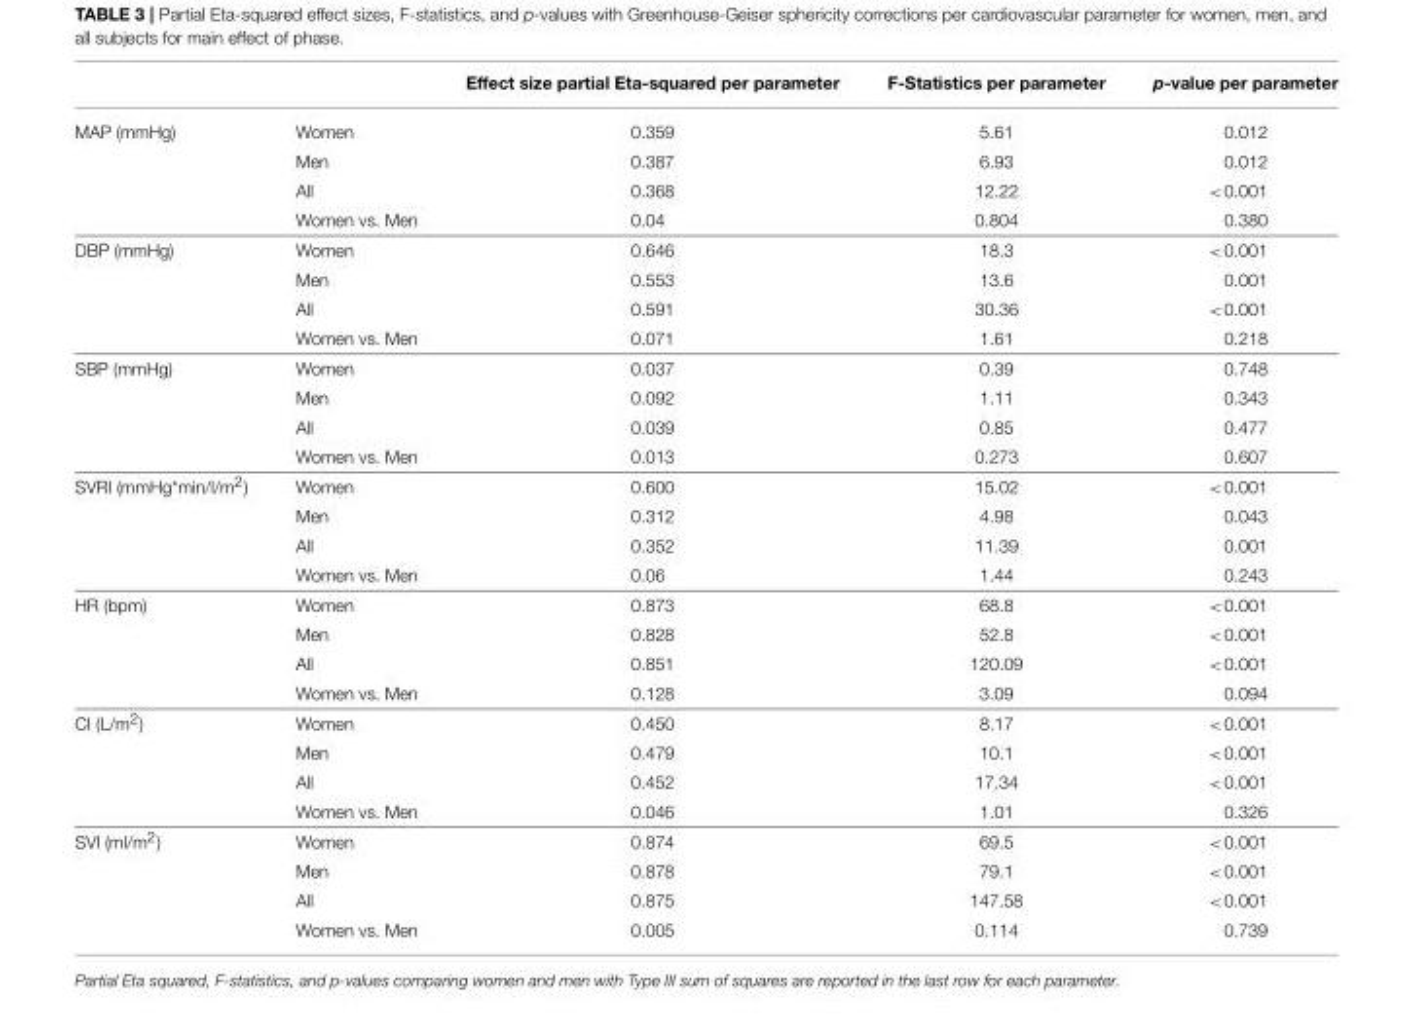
<table><thead><tr><td></td><td></td><td>Effect size partial Eta-squared per parameter</td><td>F-Statistics per parameter</td><td>p-value per parameter</td></tr></thead><tbody><tr><td rowspan="4">MAP (mmHg)</td><td>Women</td><td>0.359</td><td>5.61</td><td>0.012</td></tr><tr><td>Men</td><td>0.387</td><td>6.93</td><td>0.012</td></tr><tr><td>All</td><td>0.368</td><td>12.22</td><td>&lt;0.001</td></tr><tr><td>Women vs. Men</td><td>0.04</td><td>0.804</td><td>0.380</td></tr><tr><td rowspan="4">DBP (mmHg)</td><td>Women</td><td>0.646</td><td>18.3</td><td>&lt;0.001</td></tr><tr><td>Men</td><td>0.553</td><td>13.6</td><td>0.001</td></tr><tr><td>All</td><td>0.591</td><td>30.36</td><td>&lt;0.001</td></tr><tr><td>Women vs. Men</td><td>0.071</td><td>1.61</td><td>0.218</td></tr><tr><td rowspan="4">SBP (mmHg)</td><td>Women</td><td>0.037</td><td>0.39</td><td>0.748</td></tr><tr><td>Men</td><td>0.092</td><td>1.11</td><td>0.343</td></tr><tr><td>All</td><td>0.039</td><td>0.85</td><td>0.477</td></tr><tr><td>Women vs. Men</td><td>0.013</td><td>0.273</td><td>0.607</td></tr><tr><td rowspan="4">SVRI (mmHg*min/l/m<sup>2</sup>)</td><td>Women</td><td>0.600</td><td>15.02</td><td>&lt;0.001</td></tr><tr><td>Men</td><td>0.312</td><td>4.98</td><td>0.043</td></tr><tr><td>All</td><td>0.352</td><td>11.39</td><td>0.001</td></tr><tr><td>Women vs. Men</td><td>0.06</td><td>1.44</td><td>0.243</td></tr><tr><td rowspan="4">HR (bpm)</td><td>Women</td><td>0.873</td><td>68.8</td><td>&lt;0.001</td></tr><tr><td>Men</td><td>0.828</td><td>52.8</td><td>&lt;0.001</td></tr><tr><td>All</td><td>0.851</td><td>120.09</td><td>&lt;0.001</td></tr><tr><td>Women vs. Men</td><td>0.128</td><td>3.09</td><td>0.094</td></tr><tr><td rowspan="4">CI (L/m<sup>2</sup>)</td><td>Women</td><td>0.450</td><td>8.17</td><td>&lt;0.001</td></tr><tr><td>Men</td><td>0.479</td><td>10.1</td><td>&lt;0.001</td></tr><tr><td>All</td><td>0.452</td><td>17.34</td><td>&lt;0.001</td></tr><tr><td>Women vs. Men</td><td>0.046</td><td>1.01</td><td>0.326</td></tr><tr><td rowspan="4">SVI (ml/m<sup>2</sup>)</td><td>Women</td><td>0.874</td><td>69.5</td><td>&lt;0.001</td></tr><tr><td>Men</td><td>0.878</td><td>79.1</td><td>&lt;0.001</td></tr><tr><td>All</td><td>0.875</td><td>147.58</td><td>&lt;0.001</td></tr><tr><td>Women vs. Men</td><td>0.005</td><td>0.114</td><td>0.739</td></tr></tbody></table>